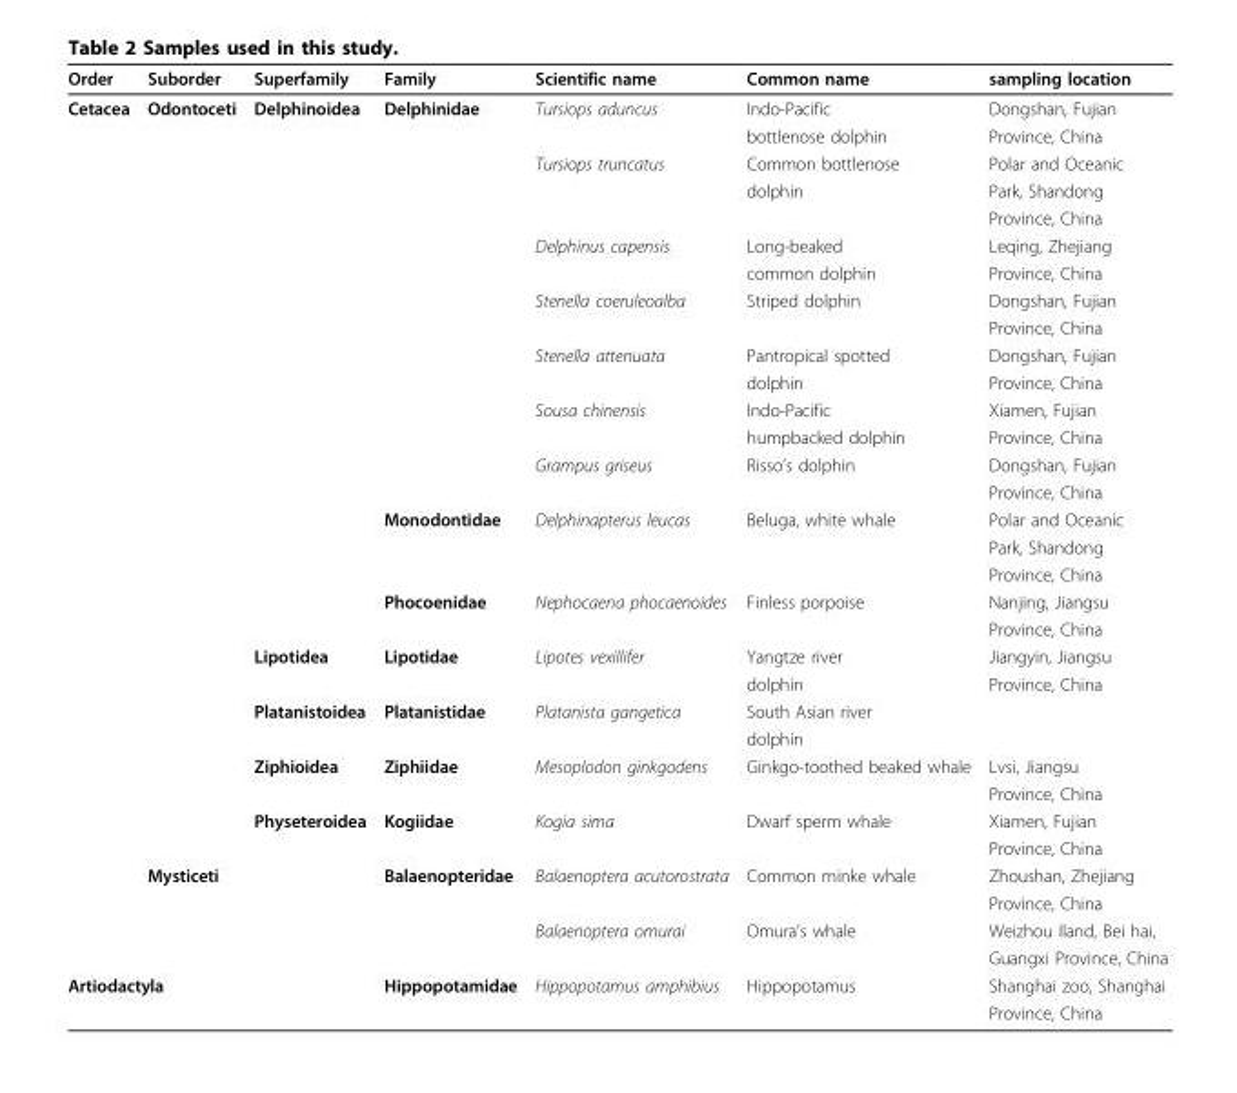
<table><thead><tr><td>Order</td><td>Suborder</td><td>Superfamily</td><td>Family</td><td>Scientific name</td><td>Common name</td><td>sampling location</td></tr></thead><tbody><tr><td rowspan="32">Cetacea</td><td>Odontoceti</td><td>Delphinoidea</td><td>Delphinidae</td><td>Tursiops aduncus</td><td>Indo-Pacific</td><td>Dongshan, Fujian</td></tr><tr><td></td><td></td><td></td><td></td><td>bottlenose dolphin</td><td>Province, China</td></tr><tr><td></td><td></td><td></td><td>Tursiops truncatus</td><td>Common bottlenose</td><td>Polar and Oceanic</td></tr><tr><td></td><td></td><td></td><td></td><td>dolphin</td><td>Park, Shandong</td></tr><tr><td></td><td></td><td></td><td></td><td></td><td>Province, China</td></tr><tr><td></td><td></td><td></td><td>Delphinus capensis</td><td>Long-beaked</td><td>Leqing, Zhejiang</td></tr><tr><td></td><td></td><td></td><td></td><td>common dolphin</td><td>Province, China</td></tr><tr><td></td><td></td><td></td><td>Stenella coeruleoalba</td><td>Striped dolphin</td><td>Dongshan, Fujian</td></tr><tr><td></td><td></td><td></td><td></td><td></td><td>Province, China</td></tr><tr><td></td><td></td><td></td><td>Stenella attenuata</td><td>Pantropical spotted</td><td>Dongshan, Fujian</td></tr><tr><td></td><td></td><td></td><td></td><td>dolphin</td><td>Province, China</td></tr><tr><td></td><td></td><td></td><td>Sousa chinensis</td><td>Indo-Pacific</td><td>Xiamen, Fujian</td></tr><tr><td></td><td></td><td></td><td></td><td>humpbacked dolphin</td><td>Province, China</td></tr><tr><td></td><td></td><td></td><td>Grampus griseus</td><td>Risso’s dolphin</td><td>Dongshan, Fujian</td></tr><tr><td></td><td></td><td></td><td></td><td></td><td>Province, China</td></tr><tr><td></td><td></td><td>Monodontidae</td><td>Delphinapterus leucas</td><td>Beluga, white whale</td><td>Polar and Oceanic</td></tr><tr><td></td><td></td><td></td><td></td><td></td><td>Park, Shandong</td></tr><tr><td></td><td></td><td></td><td></td><td></td><td>Province, China</td></tr><tr><td></td><td></td><td>Phocoenidae</td><td>Nephocaena phocaenoides</td><td>Finless porpoise</td><td>Nanjing, Jiangsu</td></tr><tr><td></td><td></td><td></td><td></td><td></td><td>Province, China</td></tr><tr><td></td><td>Lipotidea</td><td>Lipotidae</td><td>Lipotes vexillifer</td><td>Yangtze river</td><td>Jiangyin, Jiangsu</td></tr><tr><td></td><td></td><td></td><td></td><td>dolphin</td><td>Province, China</td></tr><tr><td></td><td>Platanistoidea</td><td>Platanistidae</td><td>Platanista gangetica</td><td>South Asian river</td><td></td></tr><tr><td></td><td></td><td></td><td></td><td>dolphin</td><td></td></tr><tr><td></td><td>Ziphioidea</td><td>Ziphiidae</td><td>Mesoplodon ginkgodens</td><td>Ginkgo-toothed beaked whale</td><td>Lvsi, Jiangsu</td></tr><tr><td></td><td></td><td></td><td></td><td></td><td>Province, China</td></tr><tr><td></td><td>Physeteroidea</td><td>Kogiidae</td><td>Kogia sima</td><td>Dwarf sperm whale</td><td>Xiamen, Fujian</td></tr><tr><td></td><td></td><td></td><td></td><td></td><td>Province, China</td></tr><tr><td>Mysticeti</td><td></td><td>Balaenopteridae</td><td>Balaenoptera acutorostrata</td><td>Common minke whale</td><td>Zhoushan, Zhejiang</td></tr><tr><td></td><td></td><td></td><td></td><td></td><td>Province, China</td></tr><tr><td></td><td></td><td></td><td>Balaenoptera omurai</td><td>Omura’s whale</td><td>Weizhou Iland, Bei hai,</td></tr><tr><td></td><td></td><td></td><td></td><td></td><td>Guangxi Province, China</td></tr><tr><td colspan="2">Artiodactyla</td><td></td><td>Hippopotamidae</td><td>Hippopotamus amphibius</td><td>Hippopotamus</td><td>Shanghai zoo, Shanghai</td></tr><tr><td></td><td></td><td></td><td></td><td></td><td></td><td>Province, China</td></tr></tbody></table>